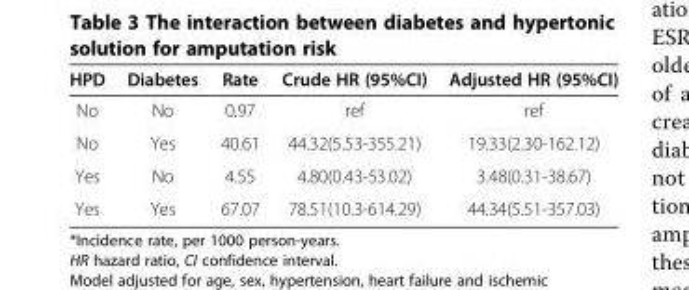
<table><thead><tr><td>HPD</td><td>Diabetes</td><td>Rate</td><td>Crude HR (95%CI)</td><td>Adjusted HR (95%CI)</td></tr></thead><tbody><tr><td>No</td><td>No</td><td>0.97</td><td>ref</td><td>ref</td></tr><tr><td>No</td><td>Yes</td><td>40.61</td><td>44.32(5.53-355.21)</td><td>19.33(2.30-162.12)</td></tr><tr><td>Yes</td><td>No</td><td>4.55</td><td>4.80(0.43-53.02)</td><td>3.48(0.31-38.67)</td></tr><tr><td>Yes</td><td>Yes</td><td>67.07</td><td>78.51(10.3-614.29)</td><td>44.34(5.51-357.03)</td></tr></tbody></table>